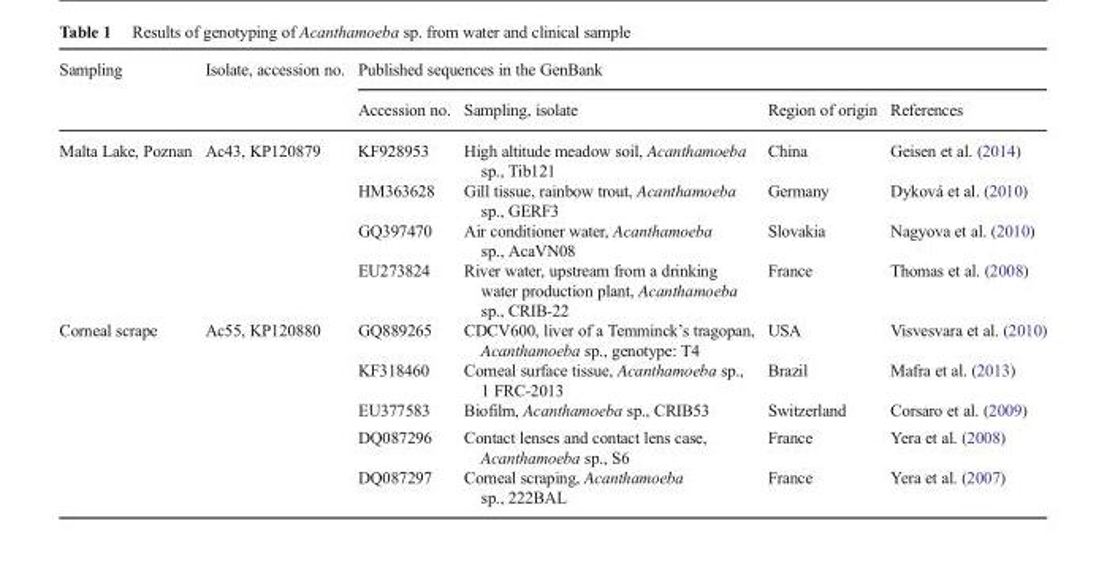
<table><thead><tr><td rowspan="2">Sampling</td><td rowspan="2">Isolate, accession no.</td><td colspan="4">Published sequences in the GenBank</td></tr><tr><td>Accession no.</td><td>Sampling, isolate</td><td>Region of origin</td><td>References</td></tr></thead><tbody><tr><td rowspan="4">Malta Lake, Poznan</td><td rowspan="4">Ac43, KP120879</td><td>KF928953</td><td>High altitude meadow soil, Acanthamoeba sp., Tib121</td><td>China</td><td>Geisen et al. (2014)</td></tr><tr><td>HM363628</td><td>Gill tissue, rainbow trout, Acanthamoeba sp., GERF3</td><td>Germany</td><td>Dyková et al. (2010)</td></tr><tr><td>GQ397470</td><td>Air conditioner water, Acanthamoeba sp., AcaVN08</td><td>Slovakia</td><td>Nagyova et al. (2010)</td></tr><tr><td>EU273824</td><td>River water, upstream from a drinking water production plant, Acanthamoeba sp., CRIB-22</td><td>France</td><td>Thomas et al. (2008)</td></tr><tr><td rowspan="5">Corneal scrape</td><td rowspan="5">Ac55, KP120880</td><td>GQ889265</td><td>CDCV600, liver of a Temminck’s tragopan, Acanthamoeba sp., genotype: T4</td><td>USA</td><td>Visvesvara et al. (2010)</td></tr><tr><td>KF318460</td><td>Corneal surface tissue, Acanthamoeba sp., 1 FRC-2013</td><td>Brazil</td><td>Mafra et al. (2013)</td></tr><tr><td>EU377583</td><td>Biofilm, Acanthamoeba sp., CRIB53</td><td>Switzerland</td><td>Corsaro et al. (2009)</td></tr><tr><td>DQ087296</td><td>Contact lenses and contact lens case, Acanthamoeba sp., S6</td><td>France</td><td>Yera et al. (2008)</td></tr><tr><td>DQ087297</td><td>Corneal scraping, Acanthamoeba sp., 222BAL</td><td>France</td><td>Yera et al. (2007)</td></tr></tbody></table>